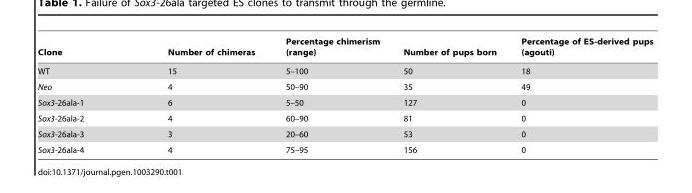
<table><thead><tr><td>Clone</td><td>Number of chimeras</td><td>Percentage chimerism (range)</td><td>Number of pups born</td><td>Percentage of ES-derived pups (agouti)</td></tr></thead><tbody><tr><td>WT</td><td>15</td><td>5–100</td><td>50</td><td>18</td></tr><tr><td>Neo</td><td>4</td><td>50–90</td><td>35</td><td>49</td></tr><tr><td>Sox3-26ala-1</td><td>6</td><td>5–50</td><td>127</td><td>0</td></tr><tr><td>Sox3-26ala-2</td><td>4</td><td>60–90</td><td>81</td><td>0</td></tr><tr><td>Sox3-26ala-3</td><td>3</td><td>20–60</td><td>53</td><td>0</td></tr><tr><td>Sox3-26ala-4</td><td>4</td><td>75–95</td><td>156</td><td>0</td></tr></tbody></table>